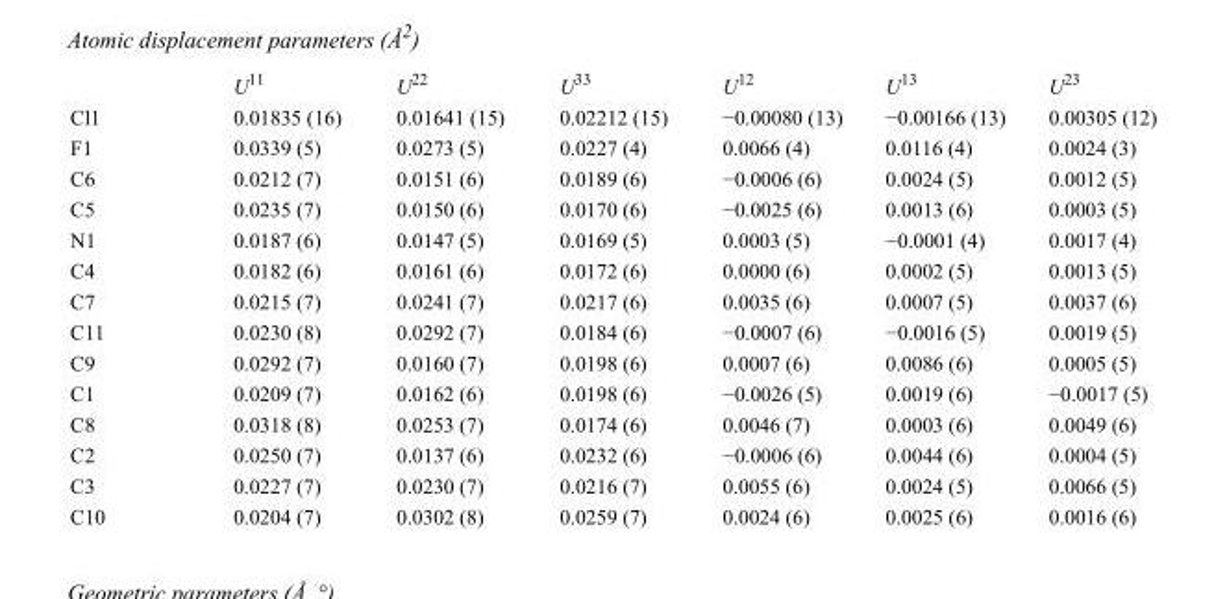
<table><thead><tr><td></td><td>U<sup>11</sup></td><td>U<sup>22</sup></td><td>U<sup>33</sup></td><td>U<sup>12</sup></td><td>U<sup>13</sup></td><td>U<sup>23</sup></td></tr></thead><tbody><tr><td>Cl1</td><td>0.01835 (16)</td><td>0.01641 (15)</td><td>0.02212 (15)</td><td>−0.00080 (13)</td><td>−0.00166 (13)</td><td>0.00305 (12)</td></tr><tr><td>F1</td><td>0.0339 (5)</td><td>0.0273 (5)</td><td>0.0227 (4)</td><td>0.0066 (4)</td><td>0.0116 (4)</td><td>0.0024 (3)</td></tr><tr><td>C6</td><td>0.0212 (7)</td><td>0.0151 (6)</td><td>0.0189 (6)</td><td>−0.0006 (6)</td><td>0.0024 (5)</td><td>0.0012 (5)</td></tr><tr><td>C5</td><td>0.0235 (7)</td><td>0.0150 (6)</td><td>0.0170 (6)</td><td>−0.0025 (6)</td><td>0.0013 (6)</td><td>0.0003 (5)</td></tr><tr><td>N1</td><td>0.0187 (6)</td><td>0.0147 (5)</td><td>0.0169 (5)</td><td>0.0003 (5)</td><td>−0.0001 (4)</td><td>0.0017 (4)</td></tr><tr><td>C4</td><td>0.0182 (6)</td><td>0.0161 (6)</td><td>0.0172 (6)</td><td>0.0000 (6)</td><td>0.0002 (5)</td><td>0.0013 (5)</td></tr><tr><td>C7</td><td>0.0215 (7)</td><td>0.0241 (7)</td><td>0.0217 (6)</td><td>0.0035 (6)</td><td>0.0007 (5)</td><td>0.0037 (6)</td></tr><tr><td>C11</td><td>0.0230 (8)</td><td>0.0292 (7)</td><td>0.0184 (6)</td><td>−0.0007 (6)</td><td>−0.0016 (5)</td><td>0.0019 (5)</td></tr><tr><td>C9</td><td>0.0292 (7)</td><td>0.0160 (7)</td><td>0.0198 (6)</td><td>0.0007 (6)</td><td>0.0086 (6)</td><td>0.0005 (5)</td></tr><tr><td>C1</td><td>0.0209 (7)</td><td>0.0162 (6)</td><td>0.0198 (6)</td><td>−0.0026 (5)</td><td>0.0019 (6)</td><td>−0.0017 (5)</td></tr><tr><td>C8</td><td>0.0318 (8)</td><td>0.0253 (7)</td><td>0.0174 (6)</td><td>0.0046 (7)</td><td>0.0003 (6)</td><td>0.0049 (6)</td></tr><tr><td>C2</td><td>0.0250 (7)</td><td>0.0137 (6)</td><td>0.0232 (6)</td><td>−0.0006 (6)</td><td>0.0044 (6)</td><td>0.0004 (5)</td></tr><tr><td>C3</td><td>0.0227 (7)</td><td>0.0230 (7)</td><td>0.0216 (7)</td><td>0.0055 (6)</td><td>0.0024 (5)</td><td>0.0066 (5)</td></tr><tr><td>C10</td><td>0.0204 (7)</td><td>0.0302 (8)</td><td>0.0259 (7)</td><td>0.0024 (6)</td><td>0.0025 (6)</td><td>0.0016 (6)</td></tr></tbody></table>